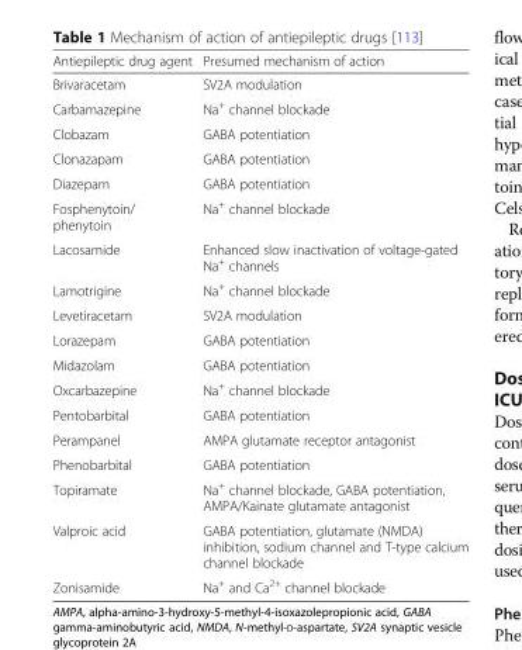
<table><thead><tr><td>Antiepileptic drug agent</td><td>Presumed mechanism of action</td></tr></thead><tbody><tr><td>Brivaracetam</td><td>SV2A modulation</td></tr><tr><td>Carbamazepine</td><td>Na<sup>+</sup> channel blockade</td></tr><tr><td>Clobazam</td><td>GABA potentiation</td></tr><tr><td>Clonazapam</td><td>GABA potentiation</td></tr><tr><td>Diazepam</td><td>GABA potentiation</td></tr><tr><td>Fosphenytoin/ phenytoin</td><td>Na<sup>+</sup> channel blockade</td></tr><tr><td>Lacosamide</td><td>Enhanced slow inactivation of voltage-gated Na<sup>+</sup> channels</td></tr><tr><td>Lamotrigine</td><td>Na<sup>+</sup> channel blockade</td></tr><tr><td>Levetiracetam</td><td>SV2A modulation</td></tr><tr><td>Lorazepam</td><td>GABA potentiation</td></tr><tr><td>Midazolam</td><td>GABA potentiation</td></tr><tr><td>Oxcarbazepine</td><td>Na<sup>+</sup> channel blockade</td></tr><tr><td>Pentobarbital</td><td>GABA potentiation</td></tr><tr><td>Perampanel</td><td>AMPA glutamate receptor antagonist</td></tr><tr><td>Phenobarbital</td><td>GABA potentiation</td></tr><tr><td>Topiramate</td><td>Na<sup>+</sup> channel blockade, GABA potentiation, AMPA/Kainate glutamate antagonist</td></tr><tr><td>Valproic acid</td><td>GABA potentiation, glutamate (NMDA) inhibition, sodium channel and T-type calcium channel blockade</td></tr><tr><td>Zonisamide</td><td>Na<sup>+</sup> and Ca<sup>2+</sup> channel blockade</td></tr></tbody></table>